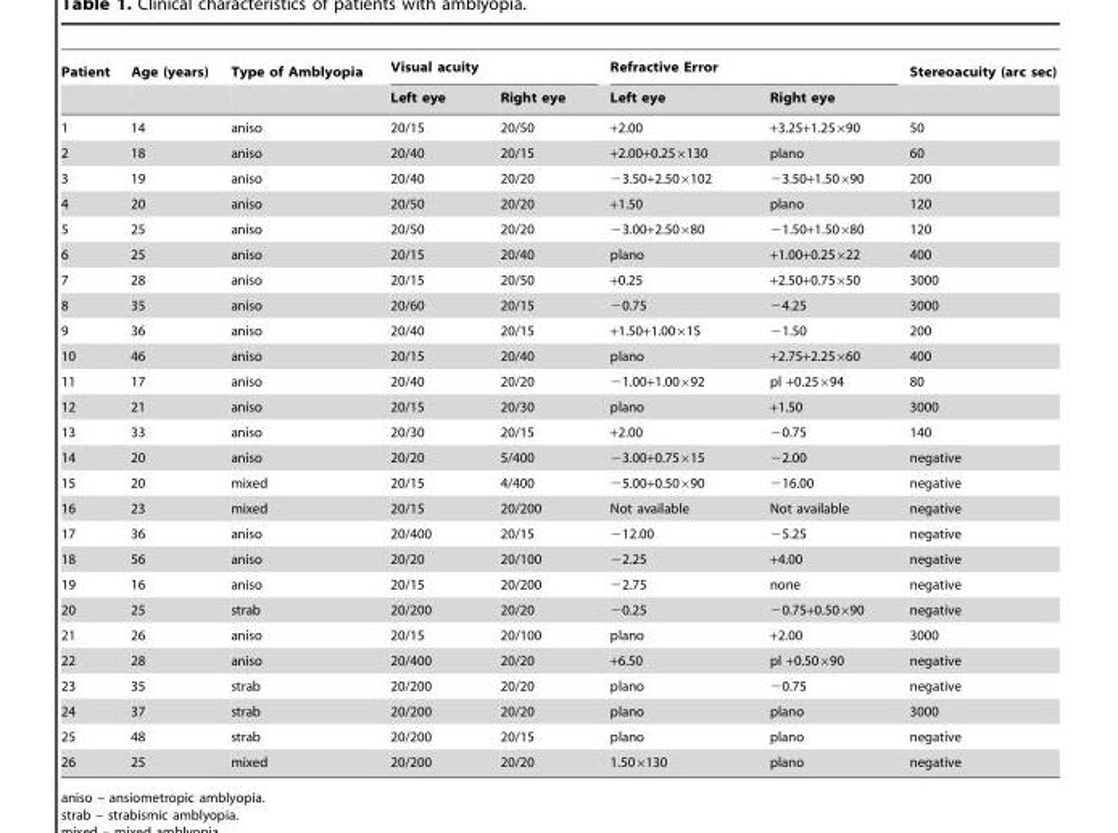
<table><thead><tr><td rowspan="2">Patient</td><td rowspan="2">Age (years)</td><td rowspan="2">Type of Amblyopia</td><td colspan="2">Visual acuity</td><td colspan="2">Refractive Error</td><td rowspan="2">Stereoacuity (arc sec)</td></tr><tr><td>Left eye</td><td>Right eye</td><td>Left eye</td><td>Right eye</td></tr></thead><tbody><tr><td>1</td><td>14</td><td>aniso</td><td>20/15</td><td>20/50</td><td>+2.00</td><td>+3.25+1.25×90</td><td>50</td></tr><tr><td>2</td><td>18</td><td>aniso</td><td>20/40</td><td>20/15</td><td>+2.00+0.25×130</td><td>plano</td><td>60</td></tr><tr><td>3</td><td>19</td><td>aniso</td><td>20/40</td><td>20/20</td><td>−3.50+2.50×102</td><td>−3.50+1.50×90</td><td>200</td></tr><tr><td>4</td><td>20</td><td>aniso</td><td>20/50</td><td>20/20</td><td>+1.50</td><td>plano</td><td>120</td></tr><tr><td>5</td><td>25</td><td>aniso</td><td>20/50</td><td>20/20</td><td>−3.00+2.50×80</td><td>−1.50+1.50×80</td><td>120</td></tr><tr><td>6</td><td>25</td><td>aniso</td><td>20/15</td><td>20/40</td><td>plano</td><td>+1.00+0.25×22</td><td>400</td></tr><tr><td>7</td><td>28</td><td>aniso</td><td>20/15</td><td>20/50</td><td>+0.25</td><td>+2.50+0.75×50</td><td>3000</td></tr><tr><td>8</td><td>35</td><td>aniso</td><td>20/60</td><td>20/15</td><td>−0.75</td><td>−4.25</td><td>3000</td></tr><tr><td>9</td><td>36</td><td>aniso</td><td>20/40</td><td>20/15</td><td>+1.50+1.00×15</td><td>−1.50</td><td>200</td></tr><tr><td>10</td><td>46</td><td>aniso</td><td>20/15</td><td>20/40</td><td>plano</td><td>+2.75+2.25×60</td><td>400</td></tr><tr><td>11</td><td>17</td><td>aniso</td><td>20/40</td><td>20/20</td><td>−1.00+1.00×92</td><td>pl +0.25×94</td><td>80</td></tr><tr><td>12</td><td>21</td><td>aniso</td><td>20/15</td><td>20/30</td><td>plano</td><td>+1.50</td><td>3000</td></tr><tr><td>13</td><td>33</td><td>aniso</td><td>20/30</td><td>20/15</td><td>+2.00</td><td>−0.75</td><td>140</td></tr><tr><td>14</td><td>20</td><td>aniso</td><td>20/20</td><td>5/400</td><td>−3.00+0.75×15</td><td>−2.00</td><td>negative</td></tr><tr><td>15</td><td>20</td><td>mixed</td><td>20/15</td><td>4/400</td><td>−5.00+0.50×90</td><td>−16.00</td><td>negative</td></tr><tr><td>16</td><td>23</td><td>mixed</td><td>20/15</td><td>20/200</td><td>Not available</td><td>Not available</td><td>negative</td></tr><tr><td>17</td><td>36</td><td>aniso</td><td>20/400</td><td>20/15</td><td>−12.00</td><td>−5.25</td><td>negative</td></tr><tr><td>18</td><td>56</td><td>aniso</td><td>20/20</td><td>20/100</td><td>−2.25</td><td>+4.00</td><td>negative</td></tr><tr><td>19</td><td>16</td><td>aniso</td><td>20/15</td><td>20/200</td><td>−2.75</td><td>none</td><td>negative</td></tr><tr><td>20</td><td>25</td><td>strab</td><td>20/200</td><td>20/20</td><td>−0.25</td><td>−0.75+0.50×90</td><td>negative</td></tr><tr><td>21</td><td>26</td><td>aniso</td><td>20/15</td><td>20/100</td><td>plano</td><td>+2.00</td><td>3000</td></tr><tr><td>22</td><td>28</td><td>aniso</td><td>20/400</td><td>20/20</td><td>+6.50</td><td>pl +0.50×90</td><td>negative</td></tr><tr><td>23</td><td>35</td><td>strab</td><td>20/200</td><td>20/20</td><td>plano</td><td>−0.75</td><td>negative</td></tr><tr><td>24</td><td>37</td><td>strab</td><td>20/200</td><td>20/20</td><td>plano</td><td>plano</td><td>3000</td></tr><tr><td>25</td><td>48</td><td>strab</td><td>20/200</td><td>20/15</td><td>plano</td><td>plano</td><td>negative</td></tr><tr><td>26</td><td>25</td><td>mixed</td><td>20/200</td><td>20/20</td><td>1.50×130</td><td>plano</td><td>negative</td></tr></tbody></table>